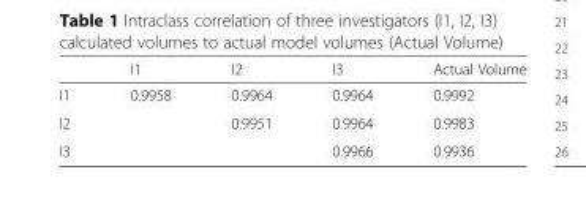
<table><thead><tr><td></td><td>I1</td><td>I2</td><td>I3</td><td>Actual Volume</td></tr></thead><tbody><tr><td>I1</td><td>0.9958</td><td>0.9964</td><td>0.9964</td><td>0.9992</td></tr><tr><td>I2</td><td></td><td>0.9951</td><td>0.9964</td><td>0.9983</td></tr><tr><td>I3</td><td></td><td></td><td>0.9966</td><td>0.9936</td></tr></tbody></table>